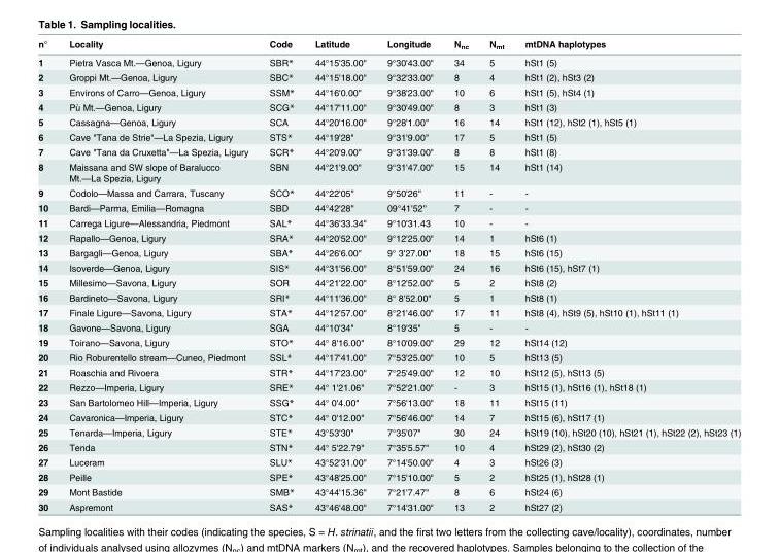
<table><thead><tr><td>n°</td><td>Locality</td><td>Code</td><td>Latitude</td><td>Longitude</td><td>N<sub>nc</sub></td><td>N<sub>mt</sub></td><td>mtDNA haplotypes</td></tr></thead><tbody><tr><td>1</td><td>Pietra Vasca Mt.—Genoa, Ligury</td><td>SBR*</td><td>44°15&#x27;35.00&quot;</td><td>9°30&#x27;43.00&quot;</td><td>34</td><td>5</td><td>hSt1 (5)</td></tr><tr><td>2</td><td>Groppi Mt.—Genoa, Ligury</td><td>SBC*</td><td>44°15&#x27;18.00&quot;</td><td>9°32&#x27;33.00&quot;</td><td>8</td><td>4</td><td>hSt1 (2), hSt3 (2)</td></tr><tr><td>3</td><td>Environs of Carro—Genoa, Ligury</td><td>SSM*</td><td>44°16&#x27;0.00&quot;</td><td>9°38&#x27;23.00&quot;</td><td>10</td><td>6</td><td>hSt1 (5), hSt4 (1)</td></tr><tr><td>4</td><td>Pù Mt.—Genoa, Ligury</td><td>SCG*</td><td>44°17&#x27;11.00&quot;</td><td>9°30&#x27;49.00&quot;</td><td>8</td><td>3</td><td>hSt1 (3)</td></tr><tr><td>5</td><td>Cassagna—Genoa, Ligury</td><td>SCA</td><td>44°20&#x27;16.00&quot;</td><td>9°28&#x27;1.00&quot;</td><td>16</td><td>14</td><td>hSt1 (12), hSt2 (1), hSt5 (1)</td></tr><tr><td>6</td><td>Cave &quot;Tana de Strie&quot;—La Spezia, Ligury</td><td>STS*</td><td>44°19&#x27;28&quot;</td><td>9°31&#x27;9.00&quot;</td><td>17</td><td>5</td><td>hSt1 (5)</td></tr><tr><td>7</td><td>Cave &quot;Tana da Cruxetta&quot;—La Spezia, Ligury</td><td>SCR*</td><td>44°20&#x27;9.00&quot;</td><td>9°31&#x27;39.00&quot;</td><td>8</td><td>8</td><td>hSt1 (8)</td></tr><tr><td>8</td><td>Maissana and SW slope of Baralucco Mt.—La Spezia, Ligury</td><td>SBN</td><td>44°21&#x27;9.00&quot;</td><td>9°31&#x27;47.00&quot;</td><td>15</td><td>14</td><td>hSt1 (14)</td></tr><tr><td>9</td><td>Codolo—Massa and Carrara, Tuscany</td><td>SCO*</td><td>44°22&#x27;05&#x27;&#x27;</td><td>9°50&#x27;26&#x27;&#x27;</td><td>11</td><td>-</td><td>-</td></tr><tr><td>10</td><td>Bardi—Parma, Emilia—Romagna</td><td>SBD</td><td>44°42&#x27;28&#x27;&#x27;</td><td>09°41&#x27;52&#x27;&#x27;</td><td>7</td><td>-</td><td>-</td></tr><tr><td>11</td><td>Carrega Ligure—Alessandria, Piedmont</td><td>SAL*</td><td>44°36&#x27;33.34&quot;</td><td>9°10&#x27;31.43</td><td>10</td><td>-</td><td>-</td></tr><tr><td>12</td><td>Rapallo—Genoa, Ligury</td><td>SRA*</td><td>44°20&#x27;52.00&quot;</td><td>9°12&#x27;25.00&quot;</td><td>14</td><td>1</td><td>hSt6 (1)</td></tr><tr><td>13</td><td>Bargagli—Genoa, Ligury</td><td>SBA*</td><td>44°26&#x27;6.00&quot;</td><td>9° 3&#x27;27.00&quot;</td><td>18</td><td>15</td><td>hSt6 (15)</td></tr><tr><td>14</td><td>Isoverde—Genoa, Ligury</td><td>SIS*</td><td>44°31&#x27;56.00&quot;</td><td>8°51&#x27;59.00&quot;</td><td>24</td><td>16</td><td>hSt6 (15), hSt7 (1)</td></tr><tr><td>15</td><td>Millesimo—Savona, Ligury</td><td>SOR</td><td>44°21&#x27;22.00&quot;</td><td>8°12&#x27;52.00&quot;</td><td>5</td><td>2</td><td>hSt8 (2)</td></tr><tr><td>16</td><td>Bardineto—Savona, Ligury</td><td>SRI*</td><td>44°11&#x27;36.00&quot;</td><td>8° 8&#x27;52.00&quot;</td><td>5</td><td>1</td><td>hSt8 (1)</td></tr><tr><td>17</td><td>Finale Ligure—Savona, Ligury</td><td>STA*</td><td>44°12&#x27;57.00&quot;</td><td>8°21&#x27;46.00&quot;</td><td>17</td><td>11</td><td>hSt8 (4), hSt9 (5), hSt10 (1), hSt11 (1)</td></tr><tr><td>18</td><td>Gavone—Savona, Ligury</td><td>SGA</td><td>44°10&#x27;34&quot;</td><td>8°19&#x27;35&quot;</td><td>5</td><td>-</td><td>-</td></tr><tr><td>19</td><td>Toirano—Savona, Ligury</td><td>STO*</td><td>44° 8&#x27;16.00&quot;</td><td>8°10&#x27;09.00&quot;</td><td>29</td><td>12</td><td>hSt14 (12)</td></tr><tr><td>20</td><td>Rio Roburentello stream—Cuneo, Piedmont</td><td>SSL*</td><td>44°17&#x27;41.00&quot;</td><td>7°53&#x27;25.00&quot;</td><td>10</td><td>5</td><td>hSt13 (5)</td></tr><tr><td>21</td><td>Roaschia and Rivoera</td><td>STR*</td><td>44°17&#x27;23.00&quot;</td><td>7°25&#x27;49.00&quot;</td><td>12</td><td>10</td><td>hSt12 (5), hSt13 (5)</td></tr><tr><td>22</td><td>Rezzo—Imperia, Ligury</td><td>SRE*</td><td>44° 1&#x27;21.06&quot;</td><td>7°52&#x27;21.00&quot;</td><td>-</td><td>3</td><td>hSt15 (1), hSt16 (1), hSt18 (1)</td></tr><tr><td>23</td><td>San Bartolomeo Hill—Imperia, Ligury</td><td>SSG*</td><td>44° 0&#x27;4.00&quot;</td><td>7°56&#x27;13.00&quot;</td><td>18</td><td>11</td><td>hSt15 (11)</td></tr><tr><td>24</td><td>Cavaronica—Imperia, Ligury</td><td>STC*</td><td>44° 0&#x27;12.00&quot;</td><td>7°56&#x27;46.00&quot;</td><td>14</td><td>7</td><td>hSt15 (6), hSt17 (1)</td></tr><tr><td>25</td><td>Tenarda—Imperia, Ligury</td><td>STE*</td><td>43°53&#x27;30&quot;</td><td>7°35&#x27;07&quot;</td><td>30</td><td>24</td><td>hSt19 (10), hSt20 (10), hSt21 (1), hSt22 (2), hSt23 (1)</td></tr><tr><td>26</td><td>Tenda</td><td>STN*</td><td>44° 5&#x27;22.79&quot;</td><td>7°35&#x27;5.57&quot;</td><td>10</td><td>4</td><td>hSt29 (2), hSt30 (2)</td></tr><tr><td>27</td><td>Luceram</td><td>SLU*</td><td>43°52&#x27;31.00&quot;</td><td>7°14&#x27;50.00&quot;</td><td>4</td><td>3</td><td>hSt26 (3)</td></tr><tr><td>28</td><td>Peille</td><td>SPE*</td><td>43°48&#x27;25.00&quot;</td><td>7°15&#x27;10.00&quot;</td><td>5</td><td>2</td><td>hSt25 (1), hSt28 (1)</td></tr><tr><td>29</td><td>Mont Bastide</td><td>SMB*</td><td>43°44&#x27;15.36&quot;</td><td>7°21&#x27;7.47&quot;</td><td>8</td><td>6</td><td>hSt24 (6)</td></tr><tr><td>30</td><td>Aspremont</td><td>SAS*</td><td>43°46&#x27;48.00&quot;</td><td>7°14&#x27;31.00&quot;</td><td>13</td><td>2</td><td>hSt27 (2)</td></tr></tbody></table>